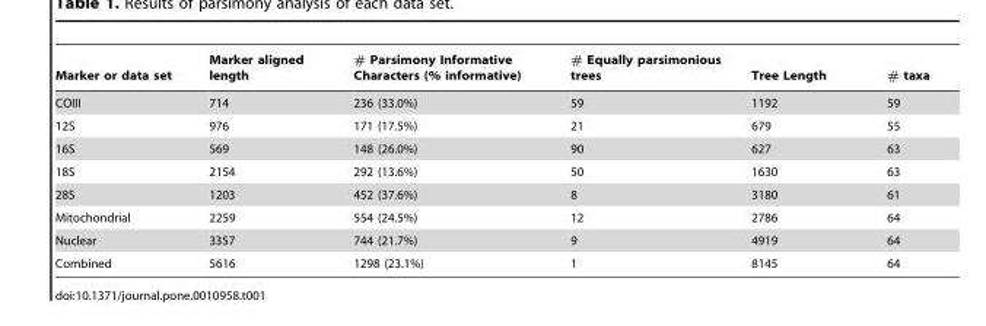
<table><thead><tr><td>Marker or data set</td><td>Marker aligned length</td><td># Parsimony Informative Characters (% informative)</td><td># Equally parsimonious trees</td><td>Tree Length</td><td># taxa</td></tr></thead><tbody><tr><td>COIII</td><td>714</td><td>236 (33.0%)</td><td>59</td><td>1192</td><td>59</td></tr><tr><td>12S</td><td>976</td><td>171 (17.5%)</td><td>21</td><td>679</td><td>55</td></tr><tr><td>16S</td><td>569</td><td>148 (26.0%)</td><td>90</td><td>627</td><td>63</td></tr><tr><td>18S</td><td>2154</td><td>292 (13.6%)</td><td>50</td><td>1630</td><td>63</td></tr><tr><td>28S</td><td>1203</td><td>452 (37.6%)</td><td>8</td><td>3180</td><td>61</td></tr><tr><td>Mitochondrial</td><td>2259</td><td>554 (24.5%)</td><td>12</td><td>2786</td><td>64</td></tr><tr><td>Nuclear</td><td>3357</td><td>744 (21.7%)</td><td>9</td><td>4919</td><td>64</td></tr><tr><td>Combined</td><td>5616</td><td>1298 (23.1%)</td><td>1</td><td>8145</td><td>64</td></tr></tbody></table>